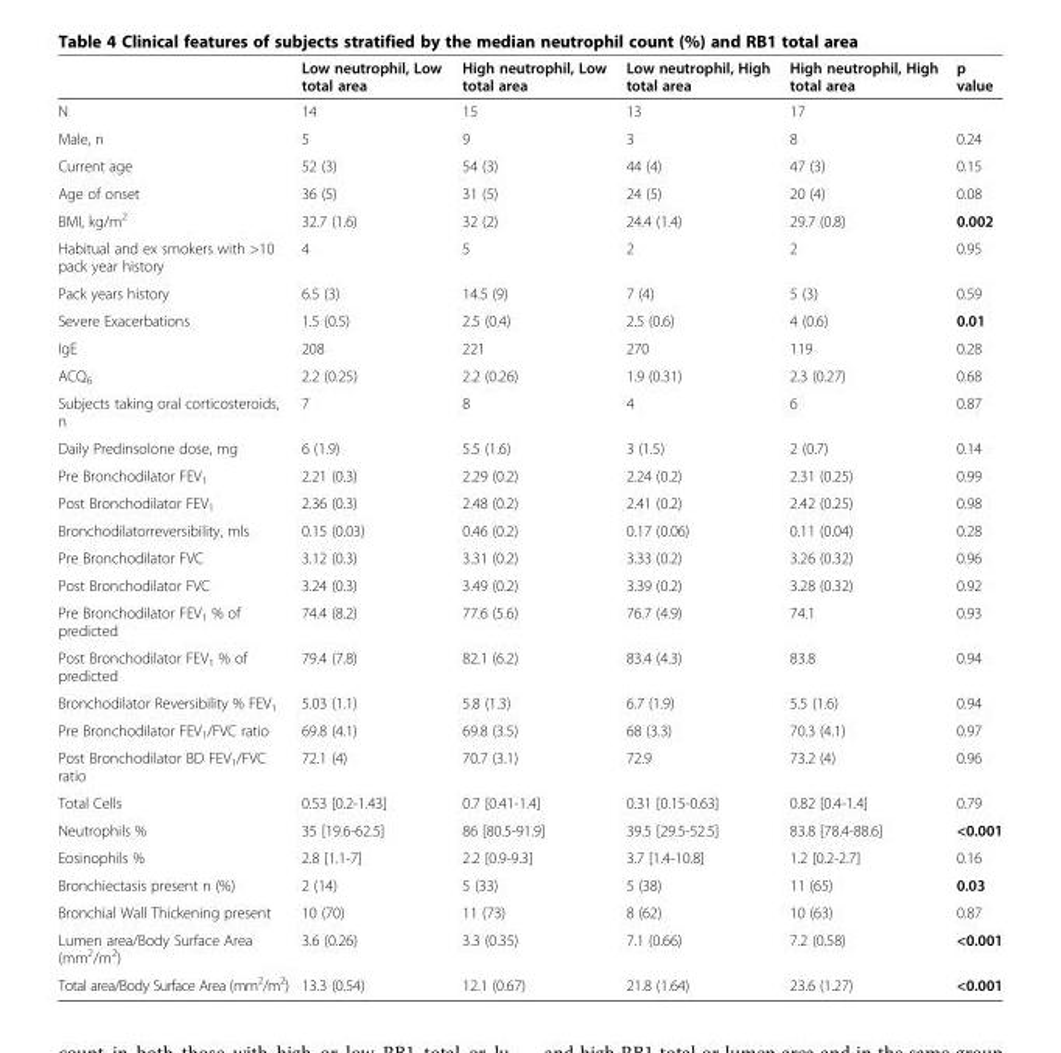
<table><thead><tr><td></td><td>Low neutrophil, Low total area</td><td>High neutrophil, Low total area</td><td>Low neutrophil, High total area</td><td>High neutrophil, High total area</td><td>p value</td></tr></thead><tbody><tr><td>N</td><td>14</td><td>15</td><td>13</td><td>17</td><td></td></tr><tr><td>Male, n</td><td>5</td><td>9</td><td>3</td><td>8</td><td>0.24</td></tr><tr><td>Current age</td><td>52 (3)</td><td>54 (3)</td><td>44 (4)</td><td>47 (3)</td><td>0.15</td></tr><tr><td>Age of onset</td><td>36 (5)</td><td>31 (5)</td><td>24 (5)</td><td>20 (4)</td><td>0.08</td></tr><tr><td>BMI, kg/m<sup>2</sup></td><td>32.7 (1.6)</td><td>32 (2)</td><td>24.4 (1.4)</td><td>29.7 (0.8)</td><td>0.002</td></tr><tr><td>Habitual and ex smokers with &gt;10 pack year history</td><td>4</td><td>5</td><td>2</td><td>2</td><td>0.95</td></tr><tr><td>Pack years history</td><td>6.5 (3)</td><td>14.5 (9)</td><td>7 (4)</td><td>5 (3)</td><td>0.59</td></tr><tr><td>Severe Exacerbations</td><td>1.5 (0.5)</td><td>2.5 (0.4)</td><td>2.5 (0.6)</td><td>4 (0.6)</td><td>0.01</td></tr><tr><td>IgE</td><td>208</td><td>221</td><td>270</td><td>119</td><td>0.28</td></tr><tr><td>ACQ<sub>6</sub></td><td>2.2 (0.25)</td><td>2.2 (0.26)</td><td>1.9 (0.31)</td><td>2.3 (0.27)</td><td>0.68</td></tr><tr><td>Subjects taking oral corticosteroids, n</td><td>7</td><td>8</td><td>4</td><td>6</td><td>0.87</td></tr><tr><td>Daily Predinsolone dose, mg</td><td>6 (1.9)</td><td>5.5 (1.6)</td><td>3 (1.5)</td><td>2 (0.7)</td><td>0.14</td></tr><tr><td>Pre Bronchodilator FEV<sub>1</sub></td><td>2.21 (0.3)</td><td>2.29 (0.2)</td><td>2.24 (0.2)</td><td>2.31 (0.25)</td><td>0.99</td></tr><tr><td>Post Bronchodilator FEV<sub>1</sub></td><td>2.36 (0.3)</td><td>2.48 (0.2)</td><td>2.41 (0.2)</td><td>2.42 (0.25)</td><td>0.98</td></tr><tr><td>Bronchodilatorreversibility, mls</td><td>0.15 (0.03)</td><td>0.46 (0.2)</td><td>0.17 (0.06)</td><td>0.11 (0.04)</td><td>0.28</td></tr><tr><td>Pre Bronchodilator FVC</td><td>3.12 (0.3)</td><td>3.31 (0.2)</td><td>3.33 (0.2)</td><td>3.26 (0.32)</td><td>0.96</td></tr><tr><td>Post Bronchodilator FVC</td><td>3.24 (0.3)</td><td>3.49 (0.2)</td><td>3.39 (0.2)</td><td>3.28 (0.32)</td><td>0.92</td></tr><tr><td>Pre Bronchodilator FEV<sub>1</sub> % of predicted</td><td>74.4 (8.2)</td><td>77.6 (5.6)</td><td>76.7 (4.9)</td><td>74.1</td><td>0.93</td></tr><tr><td>Post Bronchodilator FEV<sub>1</sub> % of predicted</td><td>79.4 (7.8)</td><td>82.1 (6.2)</td><td>83.4 (4.3)</td><td>83.8</td><td>0.94</td></tr><tr><td>Bronchodilator Reversibility % FEV<sub>1</sub></td><td>5.03 (1.1)</td><td>5.8 (1.3)</td><td>6.7 (1.9)</td><td>5.5 (1.6)</td><td>0.94</td></tr><tr><td>Pre Bronchodilator FEV<sub>1</sub>/FVC ratio</td><td>69.8 (4.1)</td><td>69.8 (3.5)</td><td>68 (3.3)</td><td>70.3 (4.1)</td><td>0.97</td></tr><tr><td>Post Bronchodilator BD FEV<sub>1</sub>/FVC ratio</td><td>72.1 (4)</td><td>70.7 (3.1)</td><td>72.9</td><td>73.2 (4)</td><td>0.96</td></tr><tr><td>Total Cells</td><td>0.53 [0.2-1.43]</td><td>0.7 [0.41-1.4]</td><td>0.31 [0.15-0.63]</td><td>0.82 [0.4-1.4]</td><td>0.79</td></tr><tr><td>Neutrophils %</td><td>35 [19.6-62.5]</td><td>86 [80.5-91.9]</td><td>39.5 [29.5-52.5]</td><td>83.8 [78.4-88.6]</td><td>&lt;0.001</td></tr><tr><td>Eosinophils %</td><td>2.8 [1.1-7]</td><td>2.2 [0.9-9.3]</td><td>3.7 [1.4-10.8]</td><td>1.2 [0.2-2.7]</td><td>0.16</td></tr><tr><td>Bronchiectasis present n (%)</td><td>2 (14)</td><td>5 (33)</td><td>5 (38)</td><td>11 (65)</td><td>0.03</td></tr><tr><td>Bronchial Wall Thickening present</td><td>10 (70)</td><td>11 (73)</td><td>8 (62)</td><td>10 (63)</td><td>0.87</td></tr><tr><td>Lumen area/Body Surface Area (mm<sup>2</sup>/m<sup>2</sup>)</td><td>3.6 (0.26)</td><td>3.3 (0.35)</td><td>7.1 (0.66)</td><td>7.2 (0.58)</td><td>&lt;0.001</td></tr><tr><td>Total area/Body Surface Area (mm<sup>2</sup>/m<sup>2</sup>)</td><td>13.3 (0.54)</td><td>12.1 (0.67)</td><td>21.8 (1.64)</td><td>23.6 (1.27)</td><td>&lt;0.001</td></tr></tbody></table>